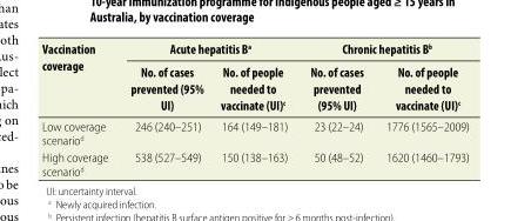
<table><thead><tr><td rowspan="2">Vaccination coverage</td><td colspan="2">Acute hepatitis B<sup>a</sup></td><td colspan="2">Chronic hepatitis B<sup>b</sup></td></tr><tr><td>No. of cases prevented (95% UI)</td><td>No. of people needed to vaccinate (UI)<sup>c</sup></td><td>No. of cases prevented (95% UI)</td><td>No. of people needed to vaccinate (UI)<sup>c</sup></td></tr></thead><tbody><tr><td>Low coverage scenario<sup>d</sup></td><td>246 (240–251)</td><td>164 (149–181)</td><td>23 (22–24)</td><td>1776 (1565–2009)</td></tr><tr><td>High coverage scenario<sup>d</sup></td><td>538 (527–549)</td><td>150 (138–163)</td><td>50 (48–52)</td><td>1620 (1460–1793)</td></tr></tbody></table>